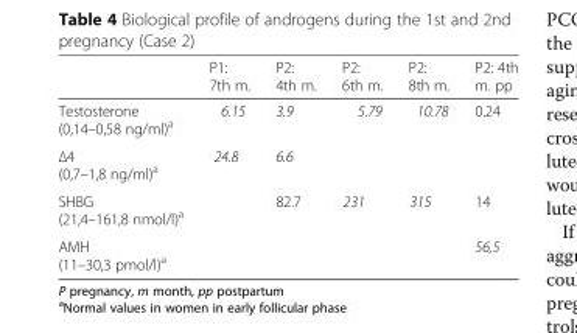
<table><thead><tr><td></td><td>P1: 7th m.</td><td>P2: 4th m.</td><td>P2: 6th m.</td><td>P2: 8th m.</td><td>P2: 4th m. pp</td></tr></thead><tbody><tr><td>Testosterone (0,14–0,58 ng/ml)<sup>a</sup></td><td>6.15</td><td>3.9</td><td>5.79</td><td>10.78</td><td>0.24</td></tr><tr><td>Δ4 (0,7–1,8 ng/ml)a</td><td>24.8</td><td>6.6</td><td></td><td></td><td></td></tr><tr><td>SHBG (21,4–161,8 nmol/l)<sup>a</sup></td><td></td><td>82.7</td><td>231</td><td>315</td><td>14</td></tr><tr><td>AMH (11–30,3 pmol/l)<sup>a</sup></td><td></td><td></td><td></td><td></td><td>56,5</td></tr></tbody></table>